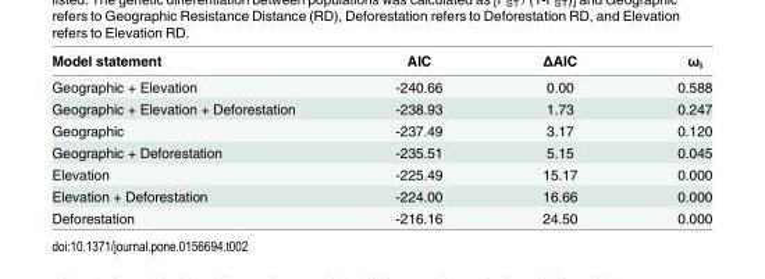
<table><thead><tr><td>Model statement</td><td>AIC</td><td>ΔAIC</td><td>ω<sub>i</sub></td></tr></thead><tbody><tr><td>Geographic + Elevation</td><td>-240.66</td><td>0.00</td><td>0.588</td></tr><tr><td>Geographic + Elevation + Deforestation</td><td>-238.93</td><td>1.73</td><td>0.247</td></tr><tr><td>Geographic</td><td>-237.49</td><td>3.17</td><td>0.120</td></tr><tr><td>Geographic + Deforestation</td><td>-235.51</td><td>5.15</td><td>0.045</td></tr><tr><td>Elevation</td><td>-225.49</td><td>15.17</td><td>0.000</td></tr><tr><td>Elevation + Deforestation</td><td>-224.00</td><td>16.66</td><td>0.000</td></tr><tr><td>Deforestation</td><td>-216.16</td><td>24.50</td><td>0.000</td></tr></tbody></table>